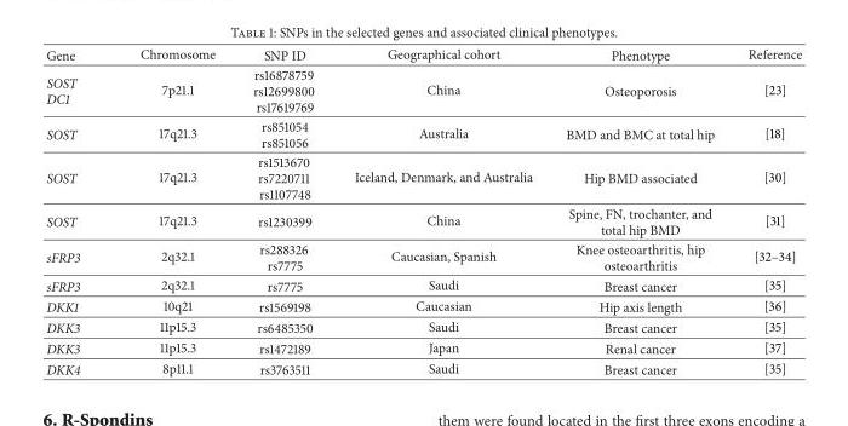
<table><thead><tr><td>Gene</td><td>Chromosome</td><td>SNP ID</td><td>Geographical cohort</td><td>Phenotype</td><td>Reference</td></tr></thead><tbody><tr><td>SOST DC1</td><td>7p21.1</td><td>rs16878759 rs12699800 rs17619769</td><td>China</td><td>Osteoporosis</td><td>[23]</td></tr><tr><td>SOST</td><td>17q21.3</td><td>rs851054 rs851056</td><td>Australia</td><td>BMD and BMC at total hip</td><td>[18]</td></tr><tr><td>SOST</td><td>17q21.3</td><td>rs1513670 rs7220711 rs1107748</td><td>Iceland, Denmark, and Australia</td><td>Hip BMD associated</td><td>[30]</td></tr><tr><td>SOST</td><td>17q21.3</td><td>rs1230399</td><td>China</td><td>Spine, FN, trochanter, and total hip BMD</td><td>[31]</td></tr><tr><td>sFRP3</td><td>2q32.1</td><td>rs288326 rs7775</td><td>Caucasian, Spanish</td><td>Knee osteoarthritis, hip osteoarthritis</td><td>[32–34]</td></tr><tr><td>sFRP3</td><td>2q32.1</td><td>rs7775</td><td>Saudi</td><td>Breast cancer</td><td>[35]</td></tr><tr><td>DKK1</td><td>10q21</td><td>rs1569198</td><td>Caucasian</td><td>Hip axis length</td><td>[36]</td></tr><tr><td>DKK3</td><td>11p15.3</td><td>rs6485350</td><td>Saudi</td><td>Breast cancer</td><td>[35]</td></tr><tr><td>DKK3</td><td>11p15.3</td><td>rs1472189</td><td>Japan</td><td>Renal cancer</td><td>[37]</td></tr><tr><td>DKK4</td><td>8p11.1</td><td>rs3763511</td><td>Saudi</td><td>Breast cancer</td><td>[35]</td></tr></tbody></table>